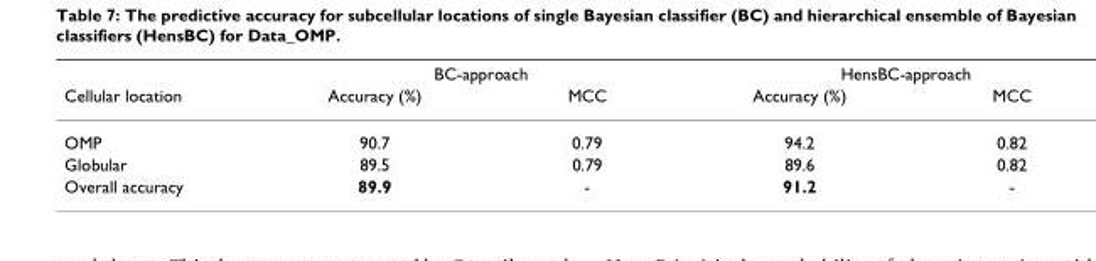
<table><thead><tr><td rowspan="2">Cellular location</td><td colspan="2">BC-approach</td><td colspan="2">HensBC-approach</td></tr><tr><td>Accuracy (%)</td><td>MCC</td><td>Accuracy (%)</td><td>MCC</td></tr></thead><tbody><tr><td>OMP</td><td>90.7</td><td>0.79</td><td>94.2</td><td>0.82</td></tr><tr><td>Globular</td><td>89.5</td><td>0.79</td><td>89.6</td><td>0.82</td></tr><tr><td>Overall accuracy</td><td>89.9</td><td>-</td><td>91.2</td><td>-</td></tr></tbody></table>